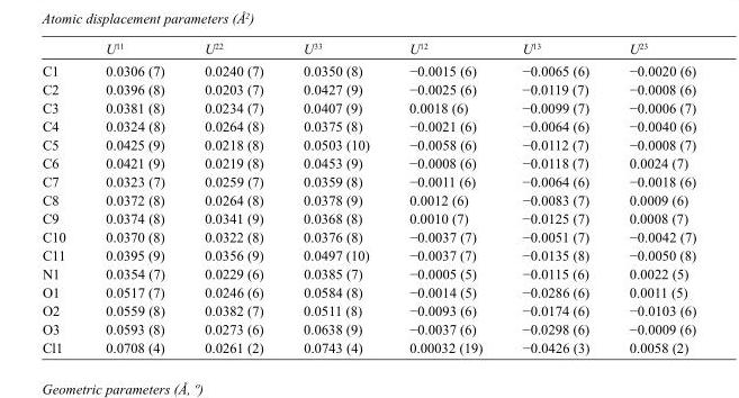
<table><thead><tr><td></td><td>U<sup>11</sup></td><td>U<sup>22</sup></td><td>U<sup>33</sup></td><td>U<sup>12</sup></td><td>U<sup>13</sup></td><td>U<sup>23</sup></td></tr></thead><tbody><tr><td>C1</td><td>0.0306 (7)</td><td>0.0240 (7)</td><td>0.0350 (8)</td><td>−0.0015 (6)</td><td>−0.0065 (6)</td><td>−0.0020 (6)</td></tr><tr><td>C2</td><td>0.0396 (8)</td><td>0.0203 (7)</td><td>0.0427 (9)</td><td>−0.0025 (6)</td><td>−0.0119 (7)</td><td>−0.0008 (6)</td></tr><tr><td>C3</td><td>0.0381 (8)</td><td>0.0234 (7)</td><td>0.0407 (9)</td><td>0.0018 (6)</td><td>−0.0099 (7)</td><td>−0.0006 (7)</td></tr><tr><td>C4</td><td>0.0324 (8)</td><td>0.0264 (8)</td><td>0.0375 (8)</td><td>−0.0021 (6)</td><td>−0.0064 (6)</td><td>−0.0040 (6)</td></tr><tr><td>C5</td><td>0.0425 (9)</td><td>0.0218 (8)</td><td>0.0503 (10)</td><td>−0.0058 (6)</td><td>−0.0112 (7)</td><td>−0.0008 (7)</td></tr><tr><td>C6</td><td>0.0421 (9)</td><td>0.0219 (8)</td><td>0.0453 (9)</td><td>−0.0008 (6)</td><td>−0.0118 (7)</td><td>0.0024 (7)</td></tr><tr><td>C7</td><td>0.0323 (7)</td><td>0.0259 (7)</td><td>0.0359 (8)</td><td>−0.0011 (6)</td><td>−0.0064 (6)</td><td>−0.0018 (6)</td></tr><tr><td>C8</td><td>0.0372 (8)</td><td>0.0264 (8)</td><td>0.0378 (9)</td><td>0.0012 (6)</td><td>−0.0083 (7)</td><td>0.0009 (6)</td></tr><tr><td>C9</td><td>0.0374 (8)</td><td>0.0341 (9)</td><td>0.0368 (8)</td><td>0.0010 (7)</td><td>−0.0125 (7)</td><td>0.0008 (7)</td></tr><tr><td>C10</td><td>0.0370 (8)</td><td>0.0322 (8)</td><td>0.0376 (8)</td><td>−0.0037 (7)</td><td>−0.0051 (7)</td><td>−0.0042 (7)</td></tr><tr><td>C11</td><td>0.0395 (9)</td><td>0.0356 (9)</td><td>0.0497 (10)</td><td>−0.0037 (7)</td><td>−0.0135 (8)</td><td>−0.0050 (8)</td></tr><tr><td>N1</td><td>0.0354 (7)</td><td>0.0229 (6)</td><td>0.0385 (7)</td><td>−0.0005 (5)</td><td>−0.0115 (6)</td><td>0.0022 (5)</td></tr><tr><td>O1</td><td>0.0517 (7)</td><td>0.0246 (6)</td><td>0.0584 (8)</td><td>−0.0014 (5)</td><td>−0.0286 (6)</td><td>0.0011 (5)</td></tr><tr><td>O2</td><td>0.0559 (8)</td><td>0.0382 (7)</td><td>0.0511 (8)</td><td>−0.0093 (6)</td><td>−0.0174 (6)</td><td>−0.0103 (6)</td></tr><tr><td>O3</td><td>0.0593 (8)</td><td>0.0273 (6)</td><td>0.0638 (9)</td><td>−0.0037 (6)</td><td>−0.0298 (6)</td><td>−0.0009 (6)</td></tr><tr><td>Cl1</td><td>0.0708 (4)</td><td>0.0261 (2)</td><td>0.0743 (4)</td><td>0.00032 (19)</td><td>−0.0426 (3)</td><td>0.0058 (2)</td></tr></tbody></table>